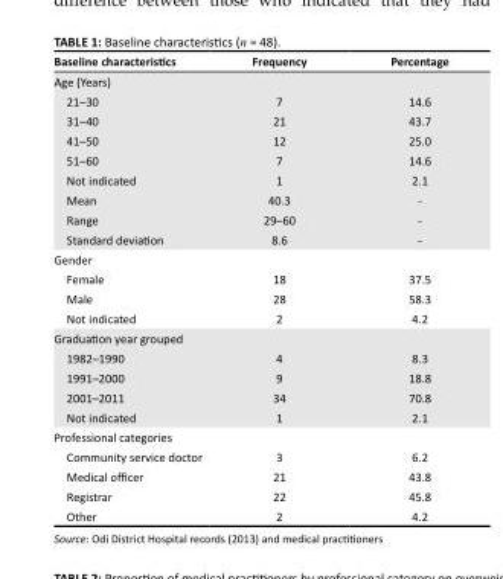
<table><thead><tr><td>Baseline characteristics</td><td>Frequency</td><td>Percentage</td></tr></thead><tbody><tr><td colspan="3">Age (Years)</td></tr><tr><td>21–30</td><td>7</td><td>14.6</td></tr><tr><td>31–40</td><td>21</td><td>43.7</td></tr><tr><td>41–50</td><td>12</td><td>25.0</td></tr><tr><td>51–60</td><td>7</td><td>14.6</td></tr><tr><td>Not indicated</td><td>1</td><td>2.1</td></tr><tr><td>Mean</td><td>40.3</td><td>-</td></tr><tr><td>Range</td><td>29–60</td><td>-</td></tr><tr><td>Standard deviation</td><td>8.6</td><td>-</td></tr><tr><td colspan="3">Gender</td></tr><tr><td>Female</td><td>18</td><td>37.5</td></tr><tr><td>Male</td><td>28</td><td>58.3</td></tr><tr><td>Not indicated</td><td>2</td><td>4.2</td></tr><tr><td colspan="3">Graduation year grouped</td></tr><tr><td>1982–1990</td><td>4</td><td>8.3</td></tr><tr><td>1991–2000</td><td>9</td><td>18.8</td></tr><tr><td>2001–2011</td><td>34</td><td>70.8</td></tr><tr><td>Not indicated</td><td>1</td><td>2.1</td></tr><tr><td colspan="3">Professional categories</td></tr><tr><td>Community service doctor</td><td>3</td><td>6.2</td></tr><tr><td>Medical officer</td><td>21</td><td>43.8</td></tr><tr><td>Registrar</td><td>22</td><td>45.8</td></tr><tr><td>Other</td><td>2</td><td>4.2</td></tr></tbody></table>